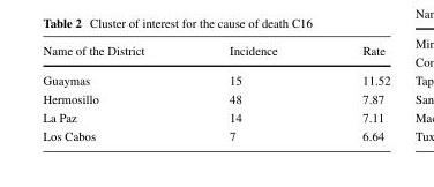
<table><thead><tr><td>Name of the District</td><td>Incidence</td><td>Rate</td></tr></thead><tbody><tr><td>Guaymas</td><td>15</td><td>11.52</td></tr><tr><td>Hermosillo</td><td>48</td><td>7.87</td></tr><tr><td>La Paz</td><td>14</td><td>7.11</td></tr><tr><td>Los Cabos</td><td>7</td><td>6.64</td></tr></tbody></table>